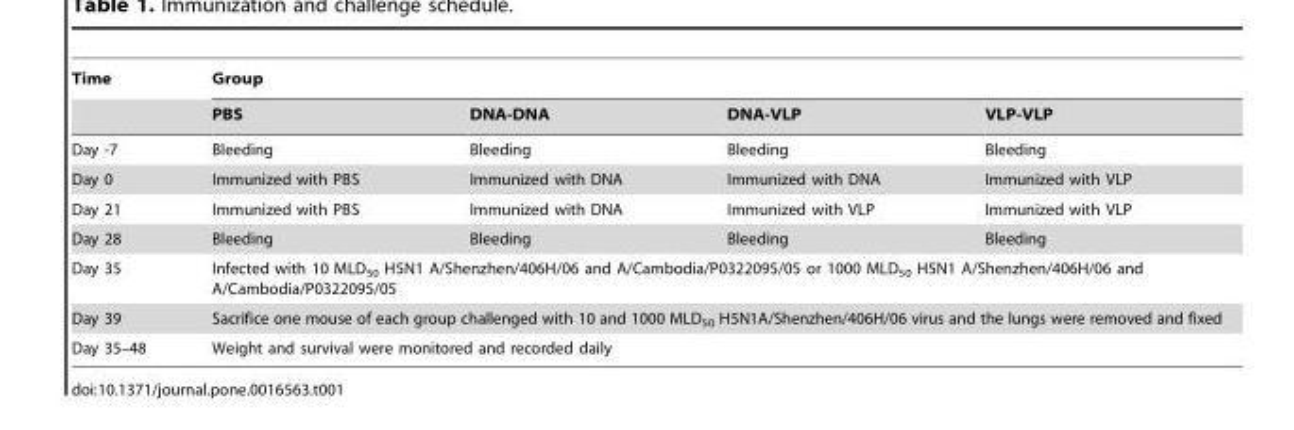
<table><thead><tr><td rowspan="2">Time</td><td colspan="4">Group</td></tr><tr><td>PBS</td><td>DNA-DNA</td><td>DNA-VLP</td><td>VLP-VLP</td></tr></thead><tbody><tr><td>Day -7</td><td>Bleeding</td><td>Bleeding</td><td>Bleeding</td><td>Bleeding</td></tr><tr><td>Day 0</td><td>Immunized with PBS</td><td>Immunized with DNA</td><td>Immunized with DNA</td><td>Immunized with VLP</td></tr><tr><td>Day 21</td><td>Immunized with PBS</td><td>Immunized with DNA</td><td>Immunized with VLP</td><td>Immunized with VLP</td></tr><tr><td>Day 28</td><td>Bleeding</td><td>Bleeding</td><td>Bleeding</td><td>Bleeding</td></tr><tr><td>Day 35</td><td colspan="4">Infected with 10 MLD<sub>50</sub> H5N1 A/Shenzhen/406H/06 and A/Cambodia/P0322095/05 or 1000 MLD<sub>50</sub> H5N1 A/Shenzhen/406H/06 and A/Cambodia/P0322095/05</td></tr><tr><td>Day 39</td><td colspan="4">Sacrifice one mouse of each group challenged with 10 and 1000 MLD<sub>50</sub> H5N1A/Shenzhen/406H/06 virus and the lungs were removed and fixed</td></tr><tr><td>Day 35–48</td><td colspan="4">Weight and survival were monitored and recorded daily</td></tr></tbody></table>